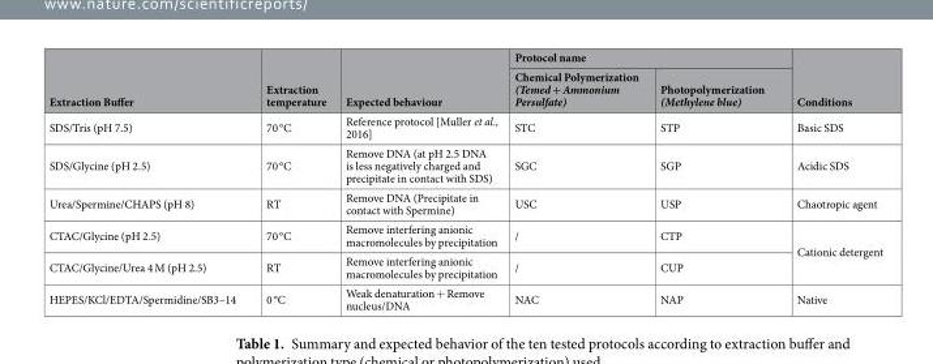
<table><thead><tr><td rowspan="2">Extraction Buffer</td><td rowspan="2">Extraction temperature</td><td rowspan="2">Expected behaviour</td><td colspan="2">Protocol name</td><td rowspan="2">Conditions</td></tr><tr><td>Chemical Polymerization (Temed + Ammonium Persulfate)</td><td>Photopolymerization (Methylene blue)</td></tr></thead><tbody><tr><td>SDS/Tris (pH 7.5)</td><td>70 °C</td><td>Reference protocol [Muller et al., 2016]</td><td>STC</td><td>STP</td><td>Basic SDS</td></tr><tr><td>SDS/Glycine (pH 2.5)</td><td>70 °C</td><td>Remove DNA (at pH 2.5 DNA is less negatively charged and precipitate in contact with SDS)</td><td>SGC</td><td>SGP</td><td>Acidic SDS</td></tr><tr><td>Urea/Spermine/CHAPS (pH 8)</td><td>RT</td><td>Remove DNA (Precipitate in contact with Spermine)</td><td>USC</td><td>USP</td><td>Chaotropic agent</td></tr><tr><td>CTAC/Glycine (pH 2.5)</td><td>70 °C</td><td>Remove interfering anionic macromolecules by precipitation</td><td>/</td><td>CTP</td><td rowspan="2">Cationic detergent</td></tr><tr><td>CTAC/Glycine/Urea 4 M (pH 2.5)</td><td>RT</td><td>Remove interfering anionic macromolecules by precipitation</td><td>/</td><td>CUP</td></tr><tr><td>HEPES/KCl/EDTA/Spermidine/SB3–14</td><td>0 °C</td><td>Weak denaturation + Remove nucleus/DNA</td><td>NAC</td><td>NAP</td><td>Native</td></tr></tbody></table>